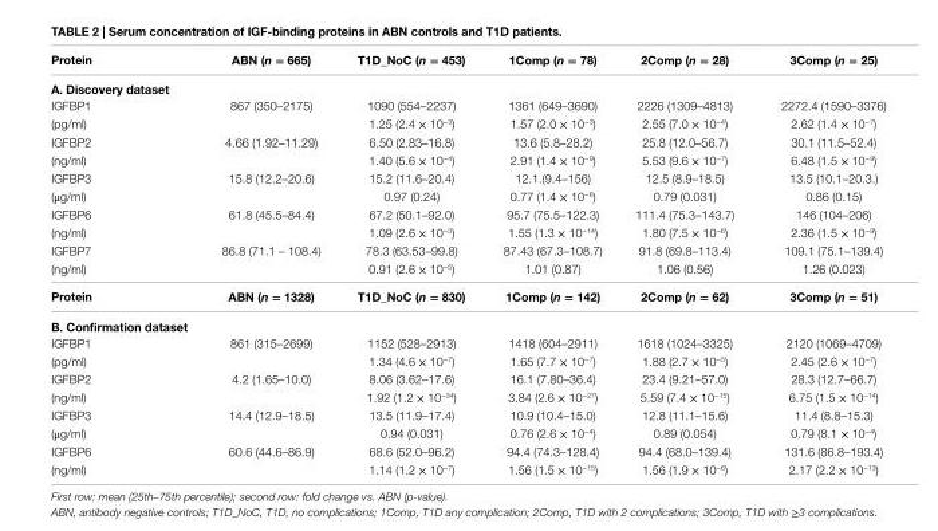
<table><thead><tr><td>Protein</td><td>aBn (n = 665)</td><td>T1D_noc (n = 453)</td><td>1comp (n = 78)</td><td>2comp (n = 28)</td><td>3comp (n = 25)</td></tr></thead><tbody><tr><td colspan="6">a. Discovery dataset</td></tr><tr><td>IGFBP1</td><td>867 (350–2175)</td><td>1090 (554–2237)</td><td>1361 (649–3690)</td><td>2226 (1309–4813)</td><td>2272.4 (1590–3376)</td></tr><tr><td>(pg/ml)</td><td></td><td>1.25 (2.4 × 10<sup>−3</sup>)</td><td>1.57 (2.0 × 10<sup>−3</sup>)</td><td>2.55 (7.0 × 10<sup>−4</sup>)</td><td>2.62 (1.4 × 10<sup>−7</sup>)</td></tr><tr><td>IGFBP2</td><td>4.66 (1.92–11.29)</td><td>6.50 (2.83–16.8)</td><td>13.6 (5.8–28.2)</td><td>25.8 (12.0–56.7)</td><td>30.1 (11.5–52.4)</td></tr><tr><td>(ng/ml)</td><td></td><td>1.40 (5.6 × 10<sup>−4</sup>)</td><td>2.91 (1.4 × 10<sup>−9</sup>)</td><td>5.53 (9.6 × 10<sup>−7</sup>)</td><td>6.48 (1.5 × 10<sup>−9</sup>)</td></tr><tr><td>IGFBP3</td><td>15.8 (12.2–20.6)</td><td>15.2 (11.6–20.4)</td><td>12.1.(9.4–156)</td><td>12.5 (8.9–18.5)</td><td>13.5 (10.1–20.3.)</td></tr><tr><td>(μg/ml)</td><td></td><td>0.97 (0.24)</td><td>0.77 (1.4 × 10<sup>−6</sup>)</td><td>0.79 (0.031)</td><td>0.86 (0.15)</td></tr><tr><td>IGFBP6</td><td>61.8 (45.5–84.4)</td><td>67.2 (50.1–92.0)</td><td>95.7 (75.5–122.3)</td><td>111.4 (75.3–143.7)</td><td>146 (104–206)</td></tr><tr><td>(ng/ml)</td><td></td><td>1.09 (2.6 × 10<sup>−3</sup>)</td><td>1.55 (1.3 × 10<sup>−14</sup>)</td><td>1.80 (7.5 × 10<sup>−6</sup>)</td><td>2.36 (1.5 × 10<sup>−9</sup>)</td></tr><tr><td>IGFBP7</td><td>86.8 (71.1 – 108.4)</td><td>78.3 (63.53–99.8)</td><td>87.43 (67.3–108.7)</td><td>91.8 (69.8–113.4)</td><td>109.1 (75.1–139.4)</td></tr><tr><td>(ng/ml)</td><td></td><td>0.91 (2.6 × 10<sup>−5</sup>)</td><td>1.01 (0.87)</td><td>1.06 (0.56)</td><td>1.26 (0.023)</td></tr><tr><td>Protein</td><td>aBn (n = 1328)</td><td>T1D_noc (n = 830)</td><td>1comp (n = 142)</td><td>2comp (n = 62)</td><td>3comp (n = 51)</td></tr><tr><td colspan="6">B. confirmation dataset</td></tr><tr><td>IGFBP1</td><td>861 (315–2699)</td><td>1152 (528–2913)</td><td>1418 (604–2911)</td><td>1618 (1024–3325)</td><td>2120 (1069–4709)</td></tr><tr><td>(pg/ml)</td><td></td><td>1.34 (4.6 × 10<sup>−7</sup>)</td><td>1.65 (7.7 × 10<sup>−7</sup>)</td><td>1.88 (2.7 × 10<sup>−5</sup>)</td><td>2.45 (2.6 × 10<sup>−7</sup>)</td></tr><tr><td>IGFBP2</td><td>4.2 (1.65–10.0)</td><td>8.06 (3.62–17.6)</td><td>16.1 (7.80–36.4)</td><td>23.4 (9.21–57.0)</td><td>28.3 (12.7–66.7)</td></tr><tr><td>(ng/ml)</td><td></td><td>1.92 (1.2 × 10<sup>−34</sup>)</td><td>3.84 (2.6 × 10<sup>−27</sup>)</td><td>5.59 (7.4 × 10<sup>−15</sup>)</td><td>6.75 (1.5 × 10<sup>−14</sup>)</td></tr><tr><td>IGFBP3</td><td>14.4 (12.9–18.5)</td><td>13.5 (11.9–17.4)</td><td>10.9 (10.4–15.0)</td><td>12.8 (11.1–15.6)</td><td>11.4 (8.8–15.3)</td></tr><tr><td>(μg/ml)</td><td></td><td>0.94 (0.031)</td><td>0.76 (2.6 × 10<sup>−4</sup>)</td><td>0.89 (0.054)</td><td>0.79 (8.1 × 10<sup>−4</sup>)</td></tr><tr><td>IGFBP6</td><td>60.6 (44.6–86.9)</td><td>68.6 (52.0–96.2)</td><td>94.4 (74.3–128.4)</td><td>94.4 (68.0–139.4)</td><td>131.6 (86.8–193.4)</td></tr><tr><td>(ng/ml)</td><td></td><td>1.14 (1.2 × 10<sup>−7</sup>)</td><td>1.56 (1.5 × 10<sup>−15</sup>)</td><td>1.56 (1.9 × 10<sup>−6</sup>)</td><td>2.17 (2.2 × 10<sup>−13</sup>)</td></tr></tbody></table>